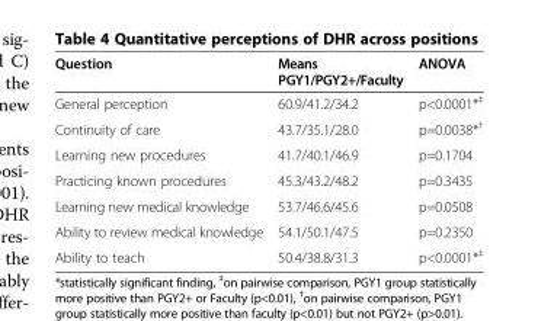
<table><thead><tr><td>Question</td><td>Means PGY1/PGY2+/Faculty</td><td>ANOVA</td></tr></thead><tbody><tr><td>General perception</td><td>60.9/41.2/34.2</td><td>p&lt;0.0001*<sup>‡</sup></td></tr><tr><td>Continuity of care</td><td>43.7/35.1/28.0</td><td>p=0.0038*<sup>†</sup></td></tr><tr><td>Learning new procedures</td><td>41.7/40.1/46.9</td><td>p=0.1704</td></tr><tr><td>Practicing known procedures</td><td>45.3/43.2/48.2</td><td>p=0.3435</td></tr><tr><td>Learning new medical knowledge</td><td>53.7/46.6/45.6</td><td>p=0.0508</td></tr><tr><td>Ability to review medical knowledge</td><td>54.1/50.1/47.5</td><td>p=0.2350</td></tr><tr><td>Ability to teach</td><td>50.4/38.8/31.3</td><td>p&lt;0.0001*<sup>‡</sup></td></tr></tbody></table>